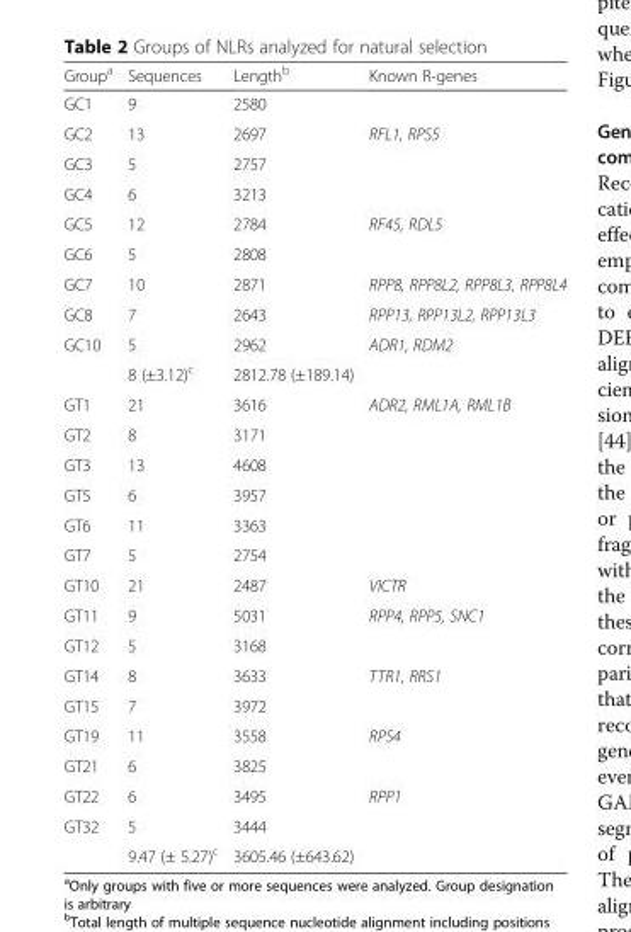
<table><thead><tr><td>Group<sup>a</sup></td><td>Sequences</td><td>Length<sup>b</sup></td><td>Known R-genes</td></tr></thead><tbody><tr><td>GC1</td><td>9</td><td>2580</td><td></td></tr><tr><td>GC2</td><td>13</td><td>2697</td><td>RFL1, RPS5</td></tr><tr><td>GC3</td><td>5</td><td>2757</td><td></td></tr><tr><td>GC4</td><td>6</td><td>3213</td><td></td></tr><tr><td>GC5</td><td>12</td><td>2784</td><td>RF45, RDL5</td></tr><tr><td>GC6</td><td>5</td><td>2808</td><td></td></tr><tr><td>GC7</td><td>10</td><td>2871</td><td>RPP8, RPP8L2, RPP8L3, RPP8L4</td></tr><tr><td>GC8</td><td>7</td><td>2643</td><td>RPP13, RPP13L2, RPP13L3</td></tr><tr><td rowspan="2">GC10</td><td>5</td><td>2962</td><td>ADR1, RDM2</td></tr><tr><td>8 (±3.12)<sup>c</sup></td><td>2812.78 (±189.14)</td><td></td></tr><tr><td>GT1</td><td>21</td><td>3616</td><td>ADR2, RML1A, RML1B</td></tr><tr><td>GT2</td><td>8</td><td>3171</td><td></td></tr><tr><td>GT3</td><td>13</td><td>4608</td><td></td></tr><tr><td>GT5</td><td>6</td><td>3957</td><td></td></tr><tr><td>GT6</td><td>11</td><td>3363</td><td></td></tr><tr><td>GT7</td><td>5</td><td>2754</td><td></td></tr><tr><td>GT10</td><td>21</td><td>2487</td><td>VICTR</td></tr><tr><td>GT11</td><td>9</td><td>5031</td><td>RPP4, RPP5, SNC1</td></tr><tr><td>GT12</td><td>5</td><td>3168</td><td></td></tr><tr><td>GT14</td><td>8</td><td>3633</td><td>TTR1, RRS1</td></tr><tr><td>GT15</td><td>7</td><td>3972</td><td></td></tr><tr><td>GT19</td><td>11</td><td>3558</td><td>RPS4</td></tr><tr><td>GT21</td><td>6</td><td>3825</td><td></td></tr><tr><td>GT22</td><td>6</td><td>3495</td><td>RPP1</td></tr><tr><td rowspan="2">GT32</td><td>5</td><td>3444</td><td></td></tr><tr><td>9.47 (± 5.27)<sup>c</sup></td><td>3605.46 (±643.62)</td><td></td></tr></tbody></table>